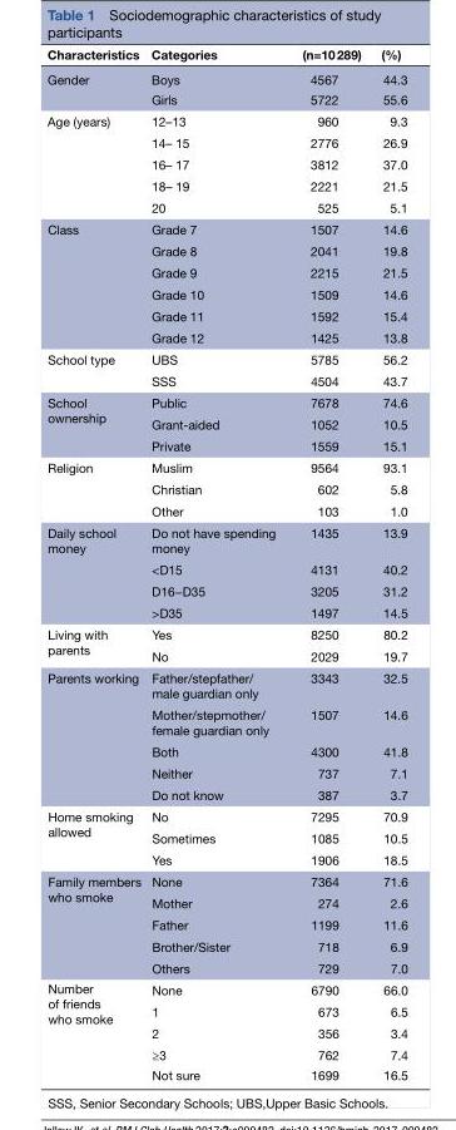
<table><thead><tr><td>Characteristics</td><td>Categories</td><td>(n=10 289)</td><td>(%)</td></tr></thead><tbody><tr><td rowspan="2">Gender</td><td>Boys</td><td>4567</td><td>44.3</td></tr><tr><td>Girls</td><td>5722</td><td>55.6</td></tr><tr><td rowspan="5">Age (years)</td><td>12–13</td><td>960</td><td>9.3</td></tr><tr><td>14– 15</td><td>2776</td><td>26.9</td></tr><tr><td>16– 17</td><td>3812</td><td>37.0</td></tr><tr><td>18– 19</td><td>2221</td><td>21.5</td></tr><tr><td>20</td><td>525</td><td>5.1</td></tr><tr><td rowspan="6">Class</td><td>Grade 7</td><td>1507</td><td>14.6</td></tr><tr><td>Grade 8</td><td>2041</td><td>19.8</td></tr><tr><td>Grade 9</td><td>2215</td><td>21.5</td></tr><tr><td>Grade 10</td><td>1509</td><td>14.6</td></tr><tr><td>Grade 11</td><td>1592</td><td>15.4</td></tr><tr><td>Grade 12</td><td>1425</td><td>13.8</td></tr><tr><td rowspan="2">School type</td><td>UBS</td><td>5785</td><td>56.2</td></tr><tr><td>SSS</td><td>4504</td><td>43.7</td></tr><tr><td rowspan="3">School ownership</td><td>Public</td><td>7678</td><td>74.6</td></tr><tr><td>Grant-aided</td><td>1052</td><td>10.5</td></tr><tr><td>Private</td><td>1559</td><td>15.1</td></tr><tr><td rowspan="3">Religion</td><td>Muslim</td><td>9564</td><td>93.1</td></tr><tr><td>Christian</td><td>602</td><td>5.8</td></tr><tr><td>Other</td><td>103</td><td>1.0</td></tr><tr><td rowspan="4">Daily school money</td><td>Do not have spending money</td><td>1435</td><td>13.9</td></tr><tr><td>&lt;D15</td><td>4131</td><td>40.2</td></tr><tr><td>D16−D35</td><td>3205</td><td>31.2</td></tr><tr><td>&gt;D35</td><td>1497</td><td>14.5</td></tr><tr><td rowspan="2">Living with parents</td><td>Yes</td><td>8250</td><td>80.2</td></tr><tr><td>No</td><td>2029</td><td>19.7</td></tr><tr><td rowspan="5">Parents working</td><td>Father/stepfather/ male guardian only</td><td>3343</td><td>32.5</td></tr><tr><td>Mother/stepmother/ female guardian only</td><td>1507</td><td>14.6</td></tr><tr><td>Both</td><td>4300</td><td>41.8</td></tr><tr><td>Neither</td><td>737</td><td>7.1</td></tr><tr><td>Do not know</td><td>387</td><td>3.7</td></tr><tr><td rowspan="3">Home smoking allowed</td><td>No</td><td>7295</td><td>70.9</td></tr><tr><td>Sometimes</td><td>1085</td><td>10.5</td></tr><tr><td>Yes</td><td>1906</td><td>18.5</td></tr><tr><td rowspan="5">Family members who smoke</td><td>None</td><td>7364</td><td>71.6</td></tr><tr><td>Mother</td><td>274</td><td>2.6</td></tr><tr><td>Father</td><td>1199</td><td>11.6</td></tr><tr><td>Brother/Sister</td><td>718</td><td>6.9</td></tr><tr><td>Others</td><td>729</td><td>7.0</td></tr><tr><td rowspan="5">Number of friends who smoke</td><td>None</td><td>6790</td><td>66.0</td></tr><tr><td>1</td><td>673</td><td>6.5</td></tr><tr><td>2</td><td>356</td><td>3.4</td></tr><tr><td>≥3</td><td>762</td><td>7.4</td></tr><tr><td>Not sure</td><td>1699</td><td>16.5</td></tr></tbody></table>